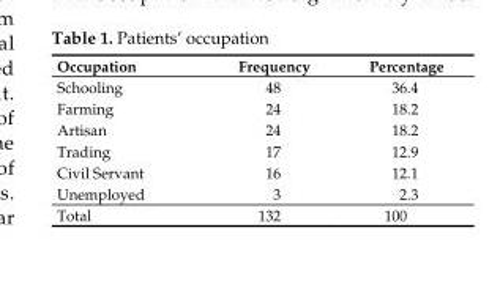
<table><thead><tr><td>Occupation</td><td>Frequency</td><td>Percentage</td></tr></thead><tbody><tr><td>Schooling</td><td>48</td><td>36.4</td></tr><tr><td>Farming</td><td>24</td><td>18.2</td></tr><tr><td>Artisan</td><td>24</td><td>18.2</td></tr><tr><td>Trading</td><td>17</td><td>12.9</td></tr><tr><td>Civil Servant</td><td>16</td><td>12.1</td></tr><tr><td>Unemployed</td><td>3</td><td>2.3</td></tr><tr><td>Total</td><td>132</td><td>100</td></tr></tbody></table>